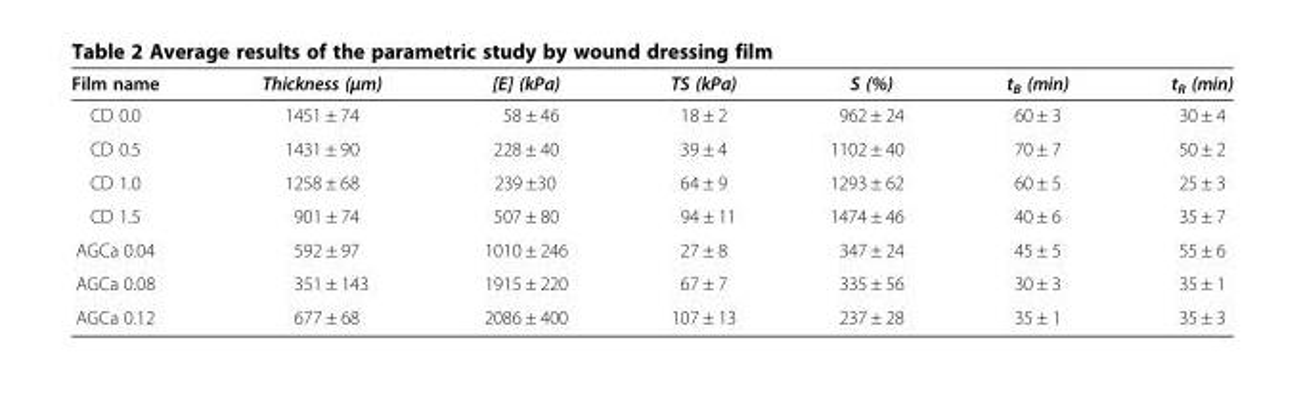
<table><thead><tr><td>Film name</td><td>Thickness (μm)</td><td>[E] (kPa)</td><td>TS (kPa)</td><td>S (%)</td><td>t<sub>B</sub> (min)</td><td>t<sub>R</sub> (min)</td></tr></thead><tbody><tr><td>CD 0.0</td><td>1451 ± 74</td><td>58 ± 46</td><td>18 ± 2</td><td>962 ± 24</td><td>60 ± 3</td><td>30 ± 4</td></tr><tr><td>CD 0.5</td><td>1431 ± 90</td><td>228 ± 40</td><td>39 ± 4</td><td>1102 ± 40</td><td>70 ± 7</td><td>50 ± 2</td></tr><tr><td>CD 1.0</td><td>1258 ± 68</td><td>239 ±30</td><td>64 ± 9</td><td>1293 ± 62</td><td>60 ± 5</td><td>25 ± 3</td></tr><tr><td>CD 1.5</td><td>901 ± 74</td><td>507 ± 80</td><td>94 ± 11</td><td>1474 ± 46</td><td>40 ± 6</td><td>35 ± 7</td></tr><tr><td>AGCa 0.04</td><td>592 ± 97</td><td>1010 ± 246</td><td>27 ± 8</td><td>347 ± 24</td><td>45 ± 5</td><td>55 ± 6</td></tr><tr><td>AGCa 0.08</td><td>351 ± 143</td><td>1915 ± 220</td><td>67 ± 7</td><td>335 ± 56</td><td>30 ± 3</td><td>35 ± 1</td></tr><tr><td>AGCa 0.12</td><td>677 ± 68</td><td>2086 ± 400</td><td>107 ± 13</td><td>237 ± 28</td><td>35 ± 1</td><td>35 ± 3</td></tr></tbody></table>